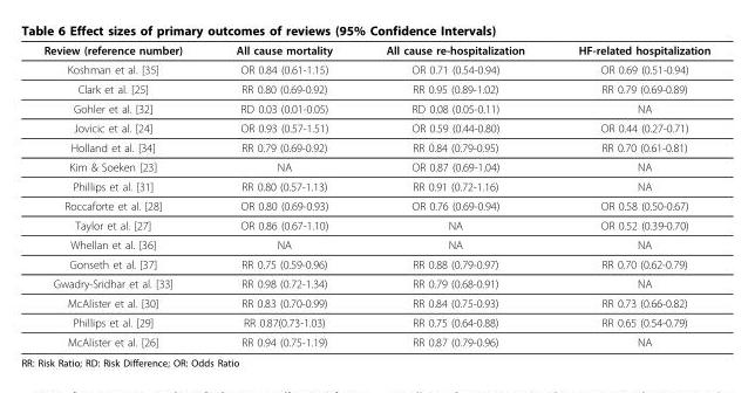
<table><thead><tr><td>Review (reference number)</td><td>All cause mortality</td><td>All cause re-hospitalization</td><td>HF-related hospitalization</td></tr></thead><tbody><tr><td>Koshman et al. [35]</td><td>OR 0.84 (0.61-1.15)</td><td>OR 0.71 (0.54-0.94)</td><td>OR 0.69 (0.51-0.94)</td></tr><tr><td>Clark et al. [25]</td><td>RR 0.80 (0.69-0.92)</td><td>RR 0.95 (0.89-1.02)</td><td>RR 0.79 (0.69-0.89)</td></tr><tr><td>Gohler et al. [32]</td><td>RD 0.03 (0.01-0.05)</td><td>RD 0.08 (0.05-0.11)</td><td>NA</td></tr><tr><td>Jovicic et al. [24]</td><td>OR 0.93 (0.57-1.51)</td><td>OR 0.59 (0.44-0.80)</td><td>OR 0.44 (0.27-0.71)</td></tr><tr><td>Holland et al. [34]</td><td>RR 0.79 (0.69-0.92)</td><td>RR 0.84 (0.79-0.95)</td><td>RR 0.70 (0.61-0.81)</td></tr><tr><td>Kim &amp; Soeken [23]</td><td>NA</td><td>OR 0.87 (0.69-1.04)</td><td>NA</td></tr><tr><td>Phillips et al. [31]</td><td>RR 0.80 (0.57-1.13)</td><td>RR 0.91 (0.72-1.16)</td><td>NA</td></tr><tr><td>Roccaforte et al. [28]</td><td>OR 0.80 (0.69-0.93)</td><td>OR 0.76 (0.69-0.94)</td><td>OR 0.58 (0.50-0.67)</td></tr><tr><td>Taylor et al. [27]</td><td>OR 0.86 (0.67-1.10)</td><td>NA</td><td>OR 0.52 (0.39-0.70)</td></tr><tr><td>Whellan et al. [36]</td><td>NA</td><td>NA</td><td>NA</td></tr><tr><td>Gonseth et al. [37]</td><td>RR 0.75 (0.59-0.96)</td><td>RR 0.88 (0.79-0.97)</td><td>RR 0.70 (0.62-0.79)</td></tr><tr><td>Gwadry-Sridhar et al. [33]</td><td>RR 0.98 (0.72-1.34)</td><td>RR 0.79 (0.68-0.91)</td><td>NA</td></tr><tr><td>McAlister et al. [30]</td><td>RR 0.83 (0.70-0.99)</td><td>RR 0.84 (0.75-0.93)</td><td>RR 0.73 (0.66-0.82)</td></tr><tr><td>Phillips et al. [29]</td><td>RR 0.87(0.73-1.03)</td><td>RR 0.75 (0.64-0.88)</td><td>RR 0.65 (0.54-0.79)</td></tr><tr><td>McAlister et al. [26]</td><td>RR 0.94 (0.75-1.19)</td><td>RR 0.87 (0.79-0.96)</td><td>NA</td></tr></tbody></table>